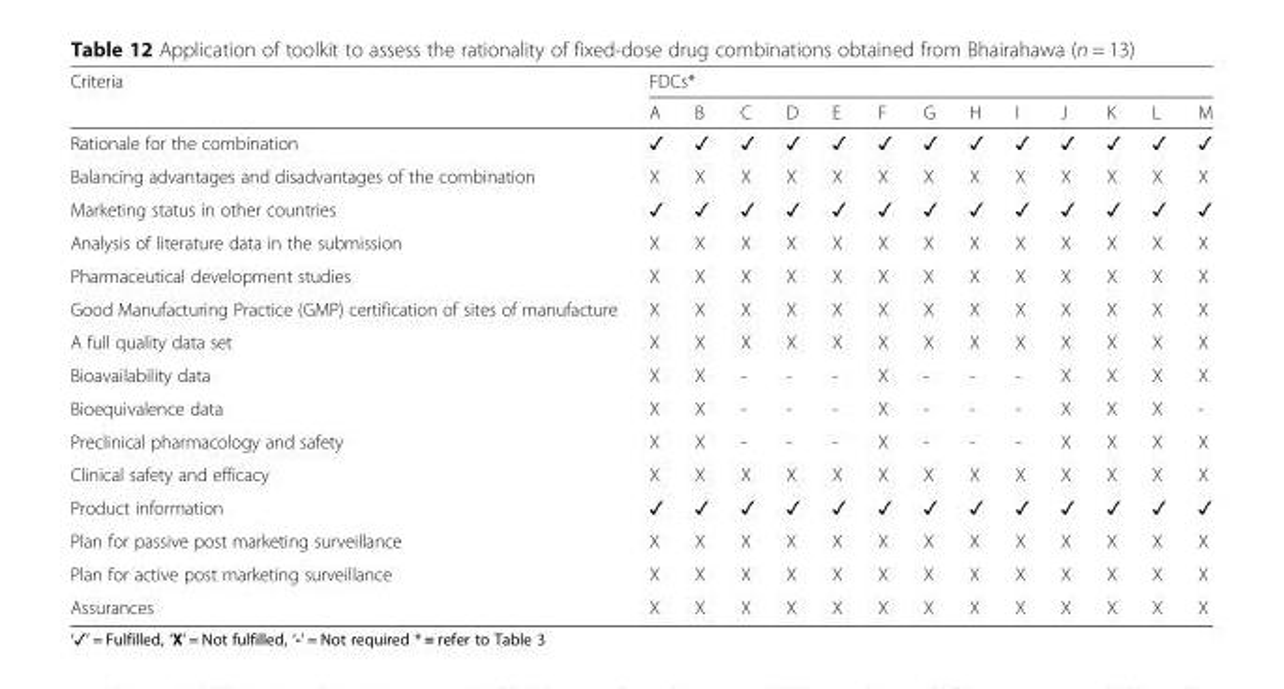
<table><thead><tr><td rowspan="2">Criteria</td><td colspan="13">FDCs*</td></tr><tr><td>A</td><td>B</td><td>C</td><td>D</td><td>E</td><td>F</td><td>G</td><td>H</td><td>I</td><td>J</td><td>K</td><td>L</td><td>M</td></tr></thead><tbody><tr><td>Rationale for the combination</td><td>✓</td><td>✓</td><td>✓</td><td>✓</td><td>✓</td><td>✓</td><td>✓</td><td>✓</td><td>✓</td><td>✓</td><td>✓</td><td>✓</td><td>✓</td></tr><tr><td>Balancing advantages and disadvantages of the combination</td><td>X</td><td>X</td><td>X</td><td>X</td><td>X</td><td>X</td><td>X</td><td>X</td><td>X</td><td>X</td><td>X</td><td>X</td><td>X</td></tr><tr><td>Marketing status in other countries</td><td>✓</td><td>✓</td><td>✓</td><td>✓</td><td>✓</td><td>✓</td><td>✓</td><td>✓</td><td>✓</td><td>✓</td><td>✓</td><td>✓</td><td>✓</td></tr><tr><td>Analysis of literature data in the submission</td><td>X</td><td>X</td><td>X</td><td>X</td><td>X</td><td>X</td><td>X</td><td>X</td><td>X</td><td>X</td><td>X</td><td>X</td><td>X</td></tr><tr><td>Pharmaceutical development studies</td><td>X</td><td>X</td><td>X</td><td>X</td><td>X</td><td>X</td><td>X</td><td>X</td><td>X</td><td>X</td><td>X</td><td>X</td><td>X</td></tr><tr><td>Good Manufacturing Practice (GMP) certification of sites of manufacture</td><td>X</td><td>X</td><td>X</td><td>X</td><td>X</td><td>X</td><td>X</td><td>X</td><td>X</td><td>X</td><td>X</td><td>X</td><td>X</td></tr><tr><td>A full quality data set</td><td>X</td><td>X</td><td>X</td><td>X</td><td>X</td><td>X</td><td>X</td><td>X</td><td>X</td><td>X</td><td>X</td><td>X</td><td>X</td></tr><tr><td>Bioavailability data</td><td>X</td><td>X</td><td>-</td><td>-</td><td>-</td><td>X</td><td>-</td><td>-</td><td>-</td><td>X</td><td>X</td><td>X</td><td>X</td></tr><tr><td>Bioequivalence data</td><td>X</td><td>X</td><td>-</td><td>-</td><td>-</td><td>X</td><td>-</td><td>-</td><td>-</td><td>X</td><td>X</td><td>X</td><td>-</td></tr><tr><td>Preclinical pharmacology and safety</td><td>X</td><td>X</td><td>-</td><td>-</td><td>-</td><td>X</td><td>-</td><td>-</td><td>-</td><td>X</td><td>X</td><td>X</td><td>X</td></tr><tr><td>Clinical safety and efficacy</td><td>X</td><td>X</td><td>X</td><td>X</td><td>X</td><td>X</td><td>X</td><td>X</td><td>X</td><td>X</td><td>X</td><td>X</td><td>X</td></tr><tr><td>Product information</td><td>✓</td><td>✓</td><td>✓</td><td>✓</td><td>✓</td><td>✓</td><td>✓</td><td>✓</td><td>✓</td><td>✓</td><td>✓</td><td>✓</td><td>✓</td></tr><tr><td>Plan for passive post marketing surveillance</td><td>X</td><td>X</td><td>X</td><td>X</td><td>X</td><td>X</td><td>X</td><td>X</td><td>X</td><td>X</td><td>X</td><td>X</td><td>X</td></tr><tr><td>Plan for active post marketing surveillance</td><td>X</td><td>X</td><td>X</td><td>X</td><td>X</td><td>X</td><td>X</td><td>X</td><td>X</td><td>X</td><td>X</td><td>X</td><td>X</td></tr><tr><td>Assurances</td><td>X</td><td>X</td><td>X</td><td>X</td><td>X</td><td>X</td><td>X</td><td>X</td><td>X</td><td>X</td><td>X</td><td>X</td><td>X</td></tr></tbody></table>